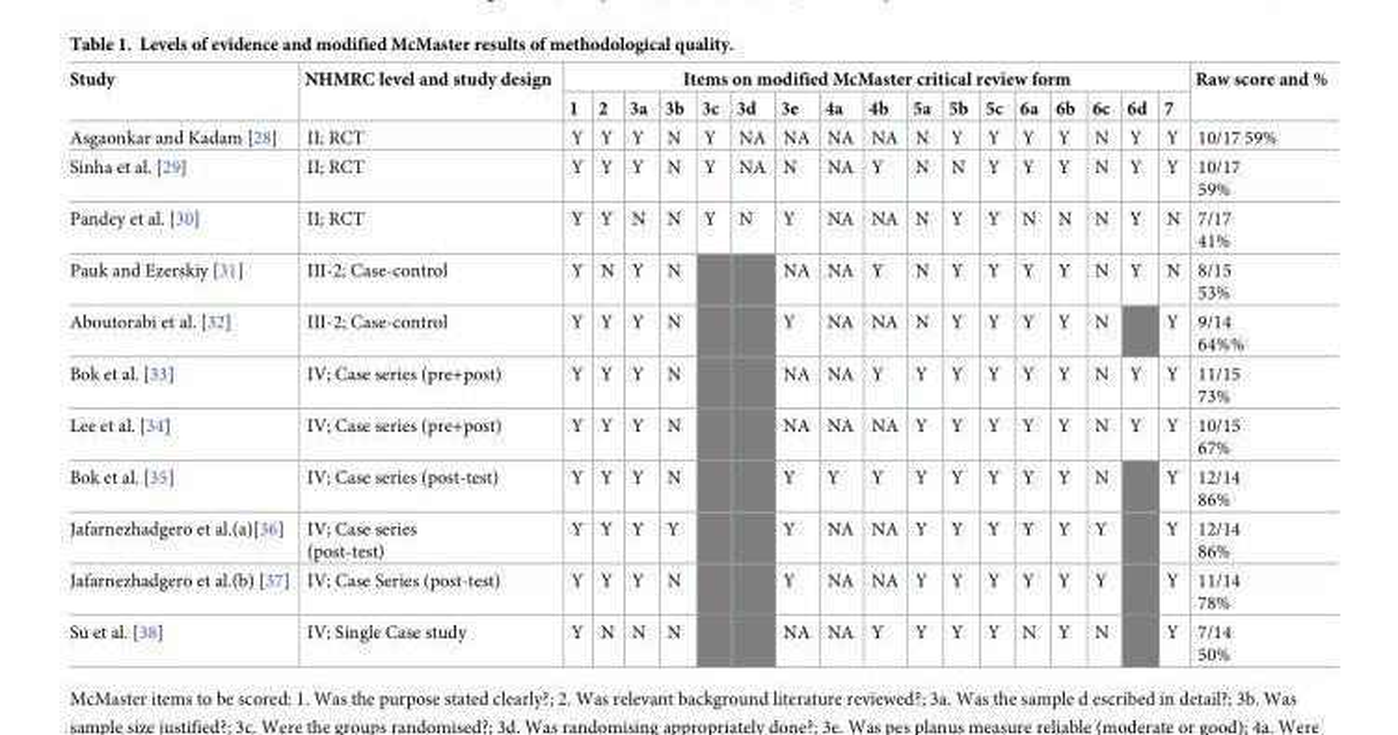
<table><thead><tr><td rowspan="2">Study</td><td rowspan="2">NHMRC level and study design</td><td colspan="17">Items on modified McMaster critical review form</td><td rowspan="2">Raw score and %</td></tr><tr><td>1</td><td>2</td><td>3a</td><td>3b</td><td>3c</td><td>3d</td><td>3e</td><td>4a</td><td>4b</td><td>5a</td><td>5b</td><td>5c</td><td>6a</td><td>6b</td><td>6c</td><td>6d</td><td>7</td></tr></thead><tbody><tr><td>Asgaonkar and Kadam [28]</td><td>II; RCT</td><td>Y</td><td>Y</td><td>Y</td><td>N</td><td>Y</td><td>NA</td><td>NA</td><td>NA</td><td>NA</td><td>N</td><td>Y</td><td>Y</td><td>Y</td><td>Y</td><td>N</td><td>Y</td><td>Y</td><td>10/17 59%</td></tr><tr><td>Sinha et al. [29]</td><td>II; RCT</td><td>Y</td><td>Y</td><td>Y</td><td>N</td><td>Y</td><td>NA</td><td>N</td><td>NA</td><td>Y</td><td>N</td><td>N</td><td>Y</td><td>Y</td><td>Y</td><td>N</td><td>Y</td><td>Y</td><td>10/17 59%</td></tr><tr><td>Pandey et al. [30]</td><td>II; RCT</td><td>Y</td><td>Y</td><td>N</td><td>N</td><td>Y</td><td>N</td><td>Y</td><td>NA</td><td>NA</td><td>N</td><td>Y</td><td>Y</td><td>N</td><td>N</td><td>N</td><td>Y</td><td>N</td><td>7/17 41%</td></tr><tr><td>Pauk and Ezerskiy [31]</td><td>III-2; Case-control</td><td>Y</td><td>N</td><td>Y</td><td>N</td><td></td><td></td><td>NA</td><td>NA</td><td>Y</td><td>N</td><td>Y</td><td>Y</td><td>Y</td><td>Y</td><td>N</td><td>Y</td><td>N</td><td>8/15 53%</td></tr><tr><td>Aboutorabi et al. [32]</td><td>III-2; Case-control</td><td>Y</td><td>Y</td><td>Y</td><td>N</td><td></td><td></td><td>Y</td><td>NA</td><td>NA</td><td>N</td><td>Y</td><td>Y</td><td>Y</td><td>Y</td><td>N</td><td></td><td>Y</td><td>9/14 64%%</td></tr><tr><td>Bok et al. [33]</td><td>IV; Case series (pre+post)</td><td>Y</td><td>Y</td><td>Y</td><td>N</td><td></td><td></td><td>NA</td><td>NA</td><td>Y</td><td>Y</td><td>Y</td><td>Y</td><td>Y</td><td>Y</td><td>N</td><td>Y</td><td>Y</td><td>11/15 73%</td></tr><tr><td>Lee et al. [34]</td><td>IV; Case series (pre+post)</td><td>Y</td><td>Y</td><td>Y</td><td>N</td><td></td><td></td><td>NA</td><td>NA</td><td>NA</td><td>Y</td><td>Y</td><td>Y</td><td>Y</td><td>Y</td><td>N</td><td>Y</td><td>Y</td><td>10/15 67%</td></tr><tr><td>Bok et al. [35]</td><td>IV; Case series (post-test)</td><td>Y</td><td>Y</td><td>Y</td><td>N</td><td></td><td></td><td>Y</td><td>Y</td><td>Y</td><td>Y</td><td>Y</td><td>Y</td><td>Y</td><td>Y</td><td>N</td><td></td><td>Y</td><td>12/14 86%</td></tr><tr><td>Jafarnezhadgero et al.(a)[36]</td><td>IV; Case series (post-test)</td><td>Y</td><td>Y</td><td>Y</td><td>Y</td><td></td><td></td><td>Y</td><td>NA</td><td>NA</td><td>Y</td><td>Y</td><td>Y</td><td>Y</td><td>Y</td><td>Y</td><td></td><td>Y</td><td>12/14 86%</td></tr><tr><td>Jafarnezhadgero et al.(b) [37]</td><td>IV; Case Series (post-test)</td><td>Y</td><td>Y</td><td>Y</td><td>N</td><td></td><td></td><td>Y</td><td>NA</td><td>NA</td><td>Y</td><td>Y</td><td>Y</td><td>Y</td><td>Y</td><td>Y</td><td></td><td>Y</td><td>11/14 78%</td></tr><tr><td>Su et al. [38]</td><td>IV; Single Case study</td><td>Y</td><td>N</td><td>N</td><td>N</td><td></td><td></td><td>NA</td><td>NA</td><td>Y</td><td>Y</td><td>Y</td><td>Y</td><td>N</td><td>Y</td><td>N</td><td></td><td>Y</td><td>7/14 50%</td></tr></tbody></table>